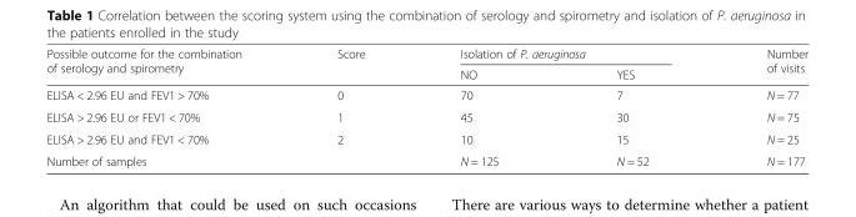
<table><thead><tr><td rowspan="2">Possible outcome for the combination of serology and spirometry</td><td rowspan="2">Score</td><td colspan="2">Isolation of P. aeruginosa</td><td rowspan="2">Number of visits</td></tr><tr><td>NO</td><td>YES</td></tr></thead><tbody><tr><td>ELISA &lt; 2.96 EU and FEV1 &gt; 70%</td><td>0</td><td>70</td><td>7</td><td>N = 77</td></tr><tr><td>ELISA &gt; 2.96 EU or FEV1 &lt; 70%</td><td>1</td><td>45</td><td>30</td><td>N = 75</td></tr><tr><td>ELISA &gt; 2.96 EU and FEV1 &lt; 70%</td><td>2</td><td>10</td><td>15</td><td>N = 25</td></tr><tr><td>Number of samples</td><td></td><td>N = 125</td><td>N = 52</td><td>N = 177</td></tr></tbody></table>